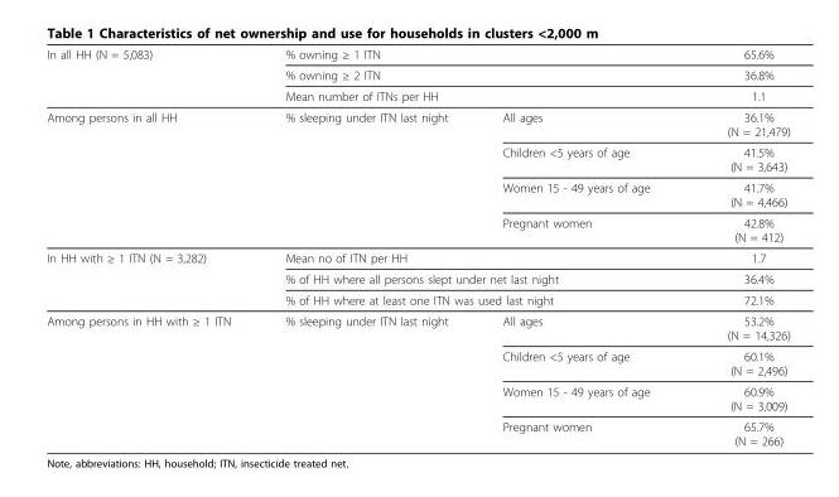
<table><thead><tr><td rowspan="4">In all HH (N = 5,083) Among persons in all HH</td><td rowspan="3" colspan="2">% owning ≥ 1 ITN % owning ≥ 2 ITN Mean number of ITNs per HH</td><td rowspan="4">65.6% 36.8% 1.1 36.1% (N = 21,479)</td></tr><tr></tr><tr></tr><tr><td>% sleeping under ITN last night</td><td>All ages</td></tr></thead><tbody><tr><td></td><td></td><td>Children &lt;5 years of age</td><td>41.5% (N = 3,643)</td></tr><tr><td></td><td></td><td>Women 15 - 49 years of age</td><td>41.7% (N = 4,466)</td></tr><tr><td></td><td></td><td>Pregnant women</td><td>42.8% (N = 412)</td></tr><tr><td rowspan="3">In HH with ≥ 1 ITN (N = 3,282)</td><td colspan="2">Mean no of ITN per HH</td><td>1.7</td></tr><tr><td colspan="2">% of HH where all persons slept under net last night</td><td>36.4%</td></tr><tr><td colspan="2">% of HH where at least one ITN was used last night</td><td>72.1%</td></tr><tr><td rowspan="4">Among persons in HH with ≥ 1 ITN</td><td>% sleeping under ITN last night</td><td>All ages</td><td>53.2% (N = 14,326)</td></tr><tr><td></td><td>Children &lt;5 years of age</td><td>60.1% (N = 2,496)</td></tr><tr><td></td><td>Women 15 - 49 years of age</td><td>60.9% (N = 3,009)</td></tr><tr><td></td><td>Pregnant women</td><td>65.7% (N = 266)</td></tr></tbody></table>